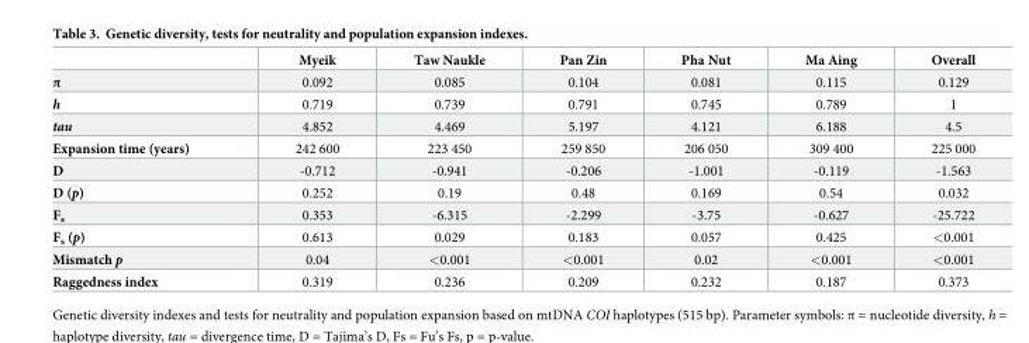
<table><thead><tr><td></td><td>Myeik</td><td>Taw Naukle</td><td>Pan Zin</td><td>Pha Nut</td><td>Ma Aing</td><td>Overall</td></tr></thead><tbody><tr><td>π</td><td>0.092</td><td>0.085</td><td>0.104</td><td>0.081</td><td>0.115</td><td>0.129</td></tr><tr><td>h</td><td>0.719</td><td>0.739</td><td>0.791</td><td>0.745</td><td>0.789</td><td>1</td></tr><tr><td>tau</td><td>4.852</td><td>4.469</td><td>5.197</td><td>4.121</td><td>6.188</td><td>4.5</td></tr><tr><td>Expansion time (years)</td><td>242 600</td><td>223 450</td><td>259 850</td><td>206 050</td><td>309 400</td><td>225 000</td></tr><tr><td>D</td><td>-0.712</td><td>-0.941</td><td>-0.206</td><td>-1.001</td><td>-0.119</td><td>-1.563</td></tr><tr><td>D (p)</td><td>0.252</td><td>0.19</td><td>0.48</td><td>0.169</td><td>0.54</td><td>0.032</td></tr><tr><td>F<sub>s</sub></td><td>0.353</td><td>-6.315</td><td>-2.299</td><td>-3.75</td><td>-0.627</td><td>-25.722</td></tr><tr><td>F<sub>s</sub> (p)</td><td>0.613</td><td>0.029</td><td>0.183</td><td>0.057</td><td>0.425</td><td>&lt;0.001</td></tr><tr><td>Mismatch p</td><td>0.04</td><td>&lt;0.001</td><td>&lt;0.001</td><td>0.02</td><td>&lt;0.001</td><td>&lt;0.001</td></tr><tr><td>Raggedness index</td><td>0.319</td><td>0.236</td><td>0.209</td><td>0.232</td><td>0.187</td><td>0.373</td></tr></tbody></table>